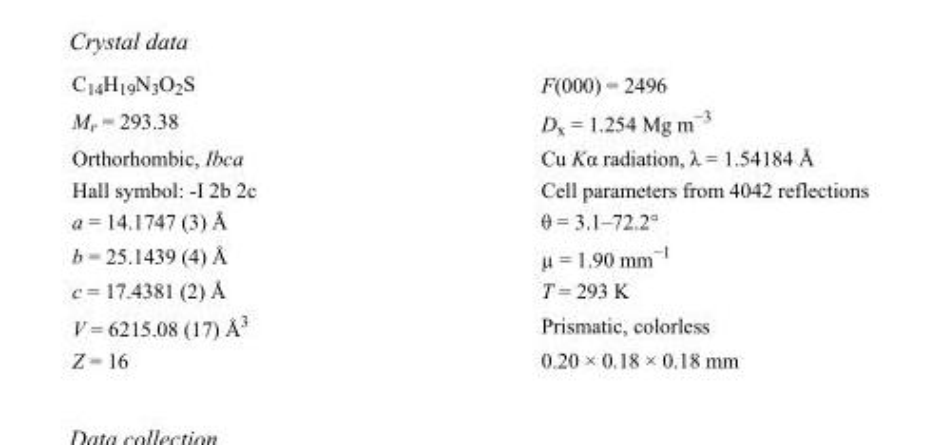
<table><tbody><tr><td>C<sub>14</sub>H<sub>19</sub>N<sub>3</sub>O<sub>2</sub>S</td><td>F(000) = 2496</td></tr><tr><td>M<sub>r</sub> = 293.38</td><td>D<sub>x</sub> = 1.254 Mg m<sup>−3</sup></td></tr><tr><td>Orthorhombic, Ibca</td><td>Cu Kα radiation, λ = 1.54184 Å</td></tr><tr><td>Hall symbol: -I 2b 2c</td><td>Cell parameters from 4042 reflections</td></tr><tr><td>a = 14.1747 (3) Å</td><td>θ = 3.1–72.2°</td></tr><tr><td>b = 25.1439 (4) Å</td><td>µ = 1.90 mm<sup>−1</sup></td></tr><tr><td>c = 17.4381 (2) Å</td><td>T = 293 K</td></tr><tr><td>V = 6215.08 (17) Å<sup>3</sup></td><td>Prismatic, colorless</td></tr><tr><td>Z = 16</td><td>0.20 × 0.18 × 0.18 mm</td></tr></tbody></table>